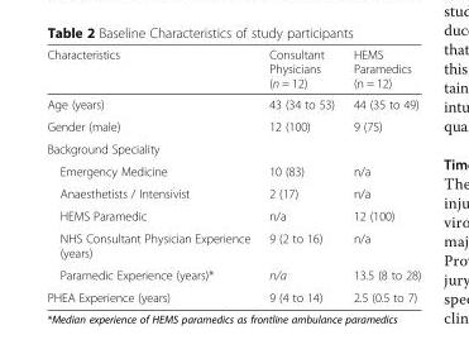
<table><thead><tr><td>Characteristics</td><td>Consultant Physicians (n = 12)</td><td>HEMS Paramedics (n = 12)</td></tr></thead><tbody><tr><td>Age (years)</td><td>43 (34 to 53)</td><td>44 (35 to 49)</td></tr><tr><td>Gender (male)</td><td>12 (100)</td><td>9 (75)</td></tr><tr><td colspan="3">Background Speciality</td></tr><tr><td>Emergency Medicine</td><td>10 (83)</td><td>n/a</td></tr><tr><td>Anaesthetists / Intensivist</td><td>2 (17)</td><td>n/a</td></tr><tr><td>HEMS Paramedic</td><td>n/a</td><td>12 (100)</td></tr><tr><td>NHS Consultant Physician Experience (years)</td><td>9 (2 to 16)</td><td>n/a</td></tr><tr><td>Paramedic Experience (years)*</td><td>n/a</td><td>13.5 (8 to 28)</td></tr><tr><td>PHEA Experience (years)</td><td>9 (4 to 14)</td><td>2.5 (0.5 to 7)</td></tr></tbody></table>